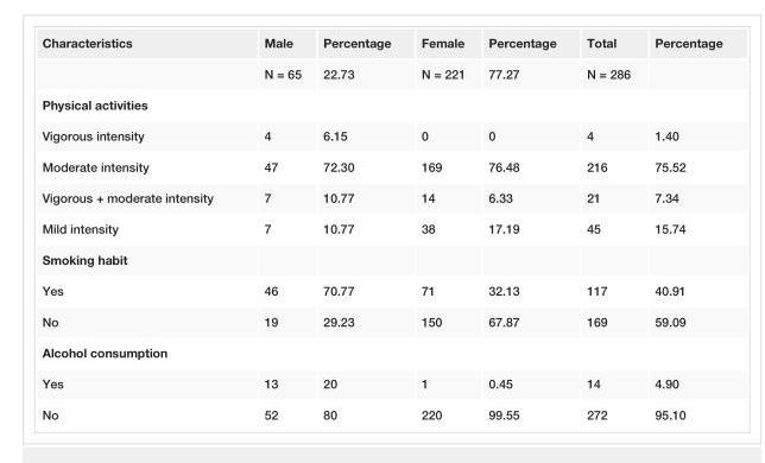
<table><tbody><tr><td rowspan="2">Characteristics</td><td>Male</td><td>Percentage</td><td>Female</td><td>Percentage</td><td>Total</td><td>Percentage</td></tr><tr><td>N = 65</td><td>22.73</td><td>N = 221</td><td>77.27</td><td>N = 286</td><td></td></tr><tr><td colspan="7">Physical activities</td></tr><tr><td>Vigorous intensity</td><td>4</td><td>6.15</td><td>0</td><td>0</td><td>4</td><td>1.40</td></tr><tr><td>Moderate intensity</td><td>47</td><td>72.30</td><td>169</td><td>76.48</td><td>216</td><td>75.52</td></tr><tr><td>Vigorous + moderate intensity</td><td>7</td><td>10.77</td><td>14</td><td>6.33</td><td>21</td><td>7.34</td></tr><tr><td>Mild intensity</td><td>7</td><td>10.77</td><td>38</td><td>17.19</td><td>45</td><td>15.74</td></tr><tr><td colspan="7">Smoking habit</td></tr><tr><td>Yes</td><td>46</td><td>70.77</td><td>71</td><td>32.13</td><td>117</td><td>40.91</td></tr><tr><td>No</td><td>19</td><td>29.23</td><td>150</td><td>67.87</td><td>169</td><td>59.09</td></tr><tr><td colspan="7">Alcohol consumption</td></tr><tr><td>Yes</td><td>13</td><td>20</td><td>1</td><td>0.45</td><td>14</td><td>4.90</td></tr><tr><td>No</td><td>52</td><td>80</td><td>220</td><td>99.55</td><td>272</td><td>95.10</td></tr></tbody></table>